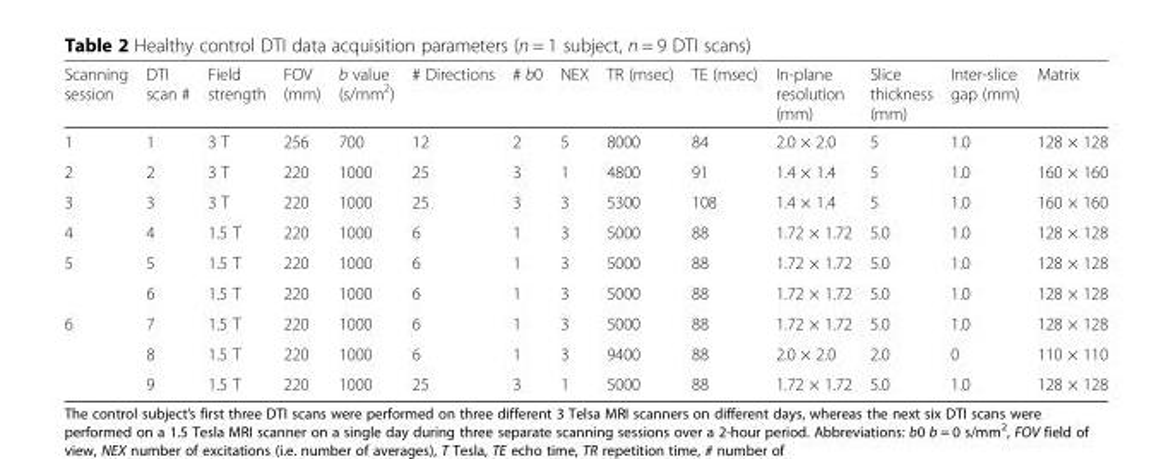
<table><thead><tr><td>Scanning session</td><td>DTI scan #</td><td>Field strength</td><td>FOV (mm)</td><td>b value (s/mm<sup>2</sup>)</td><td># Directions</td><td># b0</td><td>NEX</td><td>TR (msec)</td><td>TE (msec)</td><td>In-plane resolution (mm)</td><td>Slice thickness (mm)</td><td>Inter-slice gap (mm)</td><td>Matrix</td></tr></thead><tbody><tr><td>1</td><td>1</td><td>3 T</td><td>256</td><td>700</td><td>12</td><td>2</td><td>5</td><td>8000</td><td>84</td><td>2.0 × 2.0</td><td>5</td><td>1.0</td><td>128 × 128</td></tr><tr><td>2</td><td>2</td><td>3 T</td><td>220</td><td>1000</td><td>25</td><td>3</td><td>1</td><td>4800</td><td>91</td><td>1.4 × 1.4</td><td>5</td><td>1.0</td><td>160 × 160</td></tr><tr><td>3</td><td>3</td><td>3 T</td><td>220</td><td>1000</td><td>25</td><td>3</td><td>3</td><td>5300</td><td>108</td><td>1.4 × 1.4</td><td>5</td><td>1.0</td><td>160 × 160</td></tr><tr><td>4</td><td>4</td><td>1.5 T</td><td>220</td><td>1000</td><td>6</td><td>1</td><td>3</td><td>5000</td><td>88</td><td>1.72 × 1.72</td><td>5.0</td><td>1.0</td><td>128 × 128</td></tr><tr><td rowspan="2">5</td><td>5</td><td>1.5 T</td><td>220</td><td>1000</td><td>6</td><td>1</td><td>3</td><td>5000</td><td>88</td><td>1.72 × 1.72</td><td>5.0</td><td>1.0</td><td>128 × 128</td></tr><tr><td>6</td><td>1.5 T</td><td>220</td><td>1000</td><td>6</td><td>1</td><td>3</td><td>5000</td><td>88</td><td>1.72 × 1.72</td><td>5.0</td><td>1.0</td><td>128 × 128</td></tr><tr><td rowspan="3">6</td><td>7</td><td>1.5 T</td><td>220</td><td>1000</td><td>6</td><td>1</td><td>3</td><td>5000</td><td>88</td><td>1.72 × 1.72</td><td>5.0</td><td>1.0</td><td>128 × 128</td></tr><tr><td>8</td><td>1.5 T</td><td>220</td><td>1000</td><td>6</td><td>1</td><td>3</td><td>9400</td><td>88</td><td>2.0 × 2.0</td><td>2.0</td><td>0</td><td>110 × 110</td></tr><tr><td>9</td><td>1.5 T</td><td>220</td><td>1000</td><td>25</td><td>3</td><td>1</td><td>5000</td><td>88</td><td>1.72 × 1.72</td><td>5.0</td><td>1.0</td><td>128 × 128</td></tr></tbody></table>